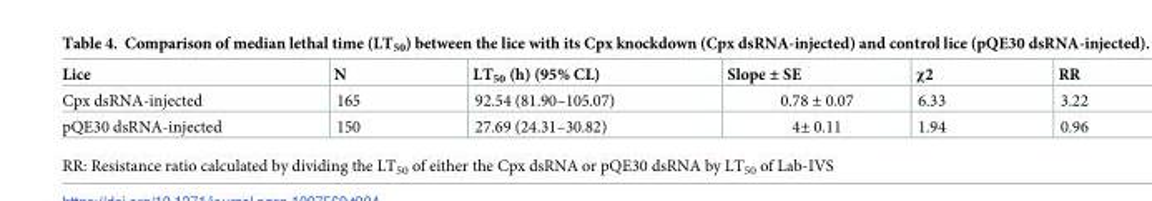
<table><thead><tr><td>Lice</td><td>N</td><td>LT<sub>50</sub> (h) (95% CL)</td><td>Slope ± SE</td><td>χ2</td><td>RR</td></tr></thead><tbody><tr><td>Cpx dsRNA-injected</td><td>165</td><td>92.54 (81.90–105.07)</td><td>0.78 ± 0.07</td><td>6.33</td><td>3.22</td></tr><tr><td>pQE30 dsRNA-injected</td><td>150</td><td>27.69 (24.31–30.82)</td><td>4± 0.11</td><td>1.94</td><td>0.96</td></tr></tbody></table>